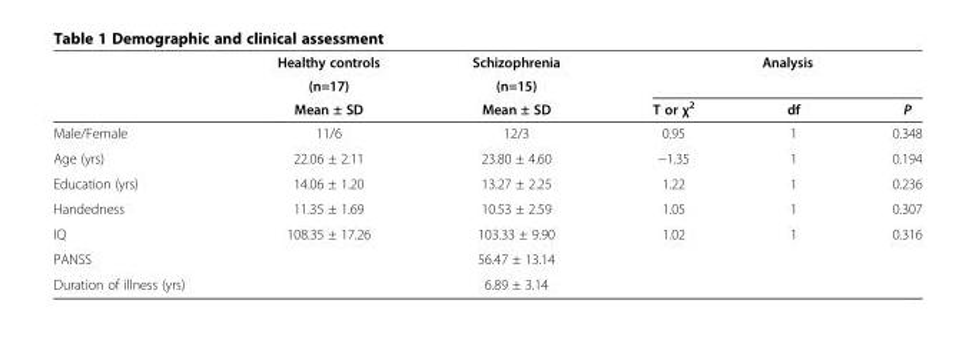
<table><thead><tr><td rowspan="3"></td><td rowspan="3">Healthy controls (n=17) Mean ± SD</td><td rowspan="3">Schizophrenia (n=15) Mean ± SD</td><td colspan="3">Analysis</td></tr><tr><td rowspan="2">T or χ<sup>2</sup></td><td rowspan="2">df</td><td rowspan="2">P</td></tr><tr></tr></thead><tbody><tr><td>Male/Female</td><td>11/6</td><td>12/3</td><td>0.95</td><td>1</td><td>0.348</td></tr><tr><td>Age (yrs)</td><td>22.06 ± 2.11</td><td>23.80 ± 4.60</td><td>−1.35</td><td>1</td><td>0.194</td></tr><tr><td>Education (yrs)</td><td>14.06 ± 1.20</td><td>13.27 ± 2.25</td><td>1.22</td><td>1</td><td>0.236</td></tr><tr><td>Handedness</td><td>11.35 ± 1.69</td><td>10.53 ± 2.59</td><td>1.05</td><td>1</td><td>0.307</td></tr><tr><td>IQ</td><td>108.35 ± 17.26</td><td>103.33 ± 9.90</td><td>1.02</td><td>1</td><td>0.316</td></tr><tr><td>PANSS</td><td></td><td>56.47 ± 13.14</td><td></td><td></td><td></td></tr><tr><td>Duration of illness (yrs)</td><td></td><td>6.89 ± 3.14</td><td></td><td></td><td></td></tr></tbody></table>